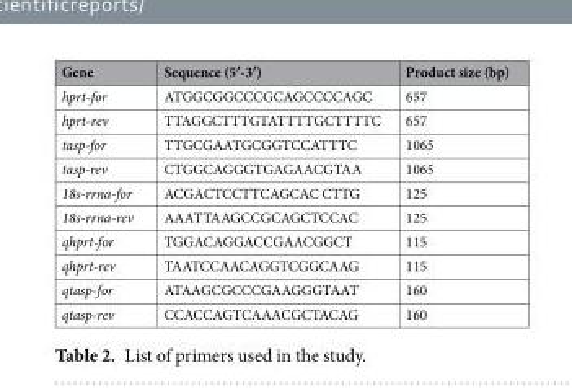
<table><thead><tr><td>Gene</td><td>Sequence (5′-3′)</td><td>Product size (bp)</td></tr></thead><tbody><tr><td>hprt-for</td><td>ATGGCGGCCCGCAGCCCCAGC</td><td>657</td></tr><tr><td>hprt-rev</td><td>TTAGGCTTTGTATTTTGCTTTTC</td><td>657</td></tr><tr><td>tasp-for</td><td>TTGCGAATGCGGTCCATTTC</td><td>1065</td></tr><tr><td>tasp-rev</td><td>CTGGCAGGGTGAGAACGTAA</td><td>1065</td></tr><tr><td>18s-rrna-for</td><td>ACGACTCCTTCAGCAC CTTG</td><td>125</td></tr><tr><td>18s-rrna-rev</td><td>AAATTAAGCCGCAGCTCCAC</td><td>125</td></tr><tr><td>qhprt-for</td><td>TGGACAGGACCGAACGGCT</td><td>115</td></tr><tr><td>qhprt-rev</td><td>TAATCCAACAGGTCGGCAAG</td><td>115</td></tr><tr><td>qtasp-for</td><td>ATAAGCGCCCGAAGGGTAAT</td><td>160</td></tr><tr><td>qtasp-rev</td><td>CCACCAGTCAAACGCTACAG</td><td>160</td></tr></tbody></table>